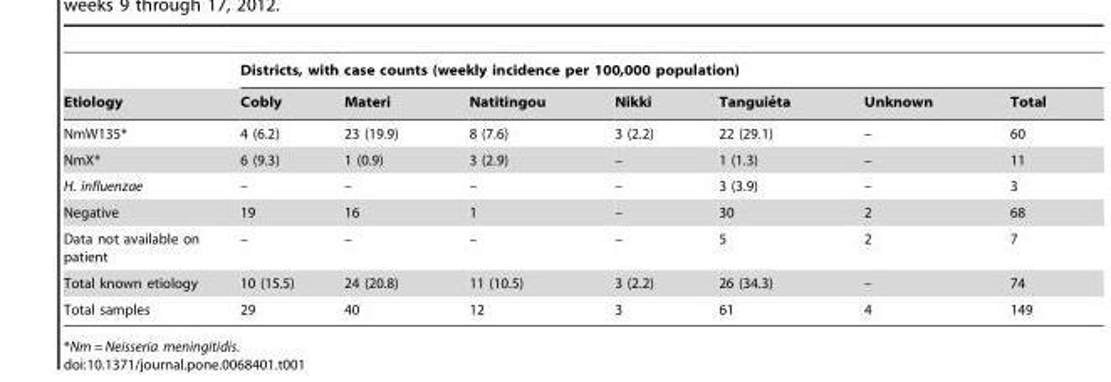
<table><thead><tr><td rowspan="2">Etiology</td><td colspan="7">Districts, with case counts (weekly incidence per 100,000 population)</td></tr><tr><td>Cobly</td><td>Materi</td><td>Natitingou</td><td>Nikki</td><td>Tanguie´ta</td><td>Unknown</td><td>Total</td></tr></thead><tbody><tr><td>NmW135*</td><td>4 (6.2)</td><td>23 (19.9)</td><td>8 (7.6)</td><td>3 (2.2)</td><td>22 (29.1)</td><td>–</td><td>60</td></tr><tr><td>NmX*</td><td>6 (9.3)</td><td>1 (0.9)</td><td>3 (2.9)</td><td>–</td><td>1 (1.3)</td><td>–</td><td>11</td></tr><tr><td>H. influenzae</td><td>–</td><td>–</td><td>–</td><td>–</td><td>3 (3.9)</td><td>–</td><td>3</td></tr><tr><td>Negative</td><td>19</td><td>16</td><td>1</td><td>–</td><td>30</td><td>2</td><td>68</td></tr><tr><td>Data not available on patient</td><td>–</td><td>–</td><td>–</td><td>–</td><td>5</td><td>2</td><td>7</td></tr><tr><td>Total known etiology</td><td>10 (15.5)</td><td>24 (20.8)</td><td>11 (10.5)</td><td>3 (2.2)</td><td>26 (34.3)</td><td>–</td><td>74</td></tr><tr><td>Total samples</td><td>29</td><td>40</td><td>12</td><td>3</td><td>61</td><td>4</td><td>149</td></tr></tbody></table>